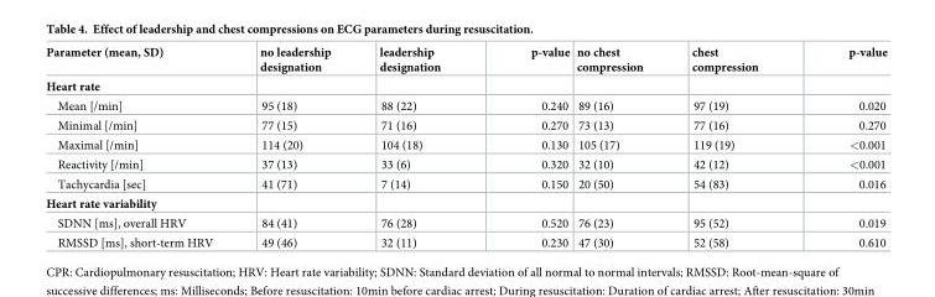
<table><thead><tr><td>Parameter (mean, SD)</td><td>no leadership designation</td><td>leadership designation</td><td>p-value</td><td>no chest compression</td><td>chest compression</td><td>p-value</td></tr></thead><tbody><tr><td colspan="7">Heart rate</td></tr><tr><td>Mean [/min]</td><td>95 (18)</td><td>88 (22)</td><td>0.240</td><td>89 (16)</td><td>97 (19)</td><td>0.020</td></tr><tr><td>Minimal [/min]</td><td>77 (15)</td><td>71 (16)</td><td>0.270</td><td>73 (13)</td><td>77 (16)</td><td>0.270</td></tr><tr><td>Maximal [/min]</td><td>114 (20)</td><td>104 (18)</td><td>0.130</td><td>105 (17)</td><td>119 (19)</td><td>&lt;0.001</td></tr><tr><td>Reactivity [/min]</td><td>37 (13)</td><td>33 (6)</td><td>0.320</td><td>32 (10)</td><td>42 (12)</td><td>&lt;0.001</td></tr><tr><td>Tachycardia [sec]</td><td>41 (71)</td><td>7 (14)</td><td>0.150</td><td>20 (50)</td><td>54 (83)</td><td>0.016</td></tr><tr><td colspan="7">Heart rate variability</td></tr><tr><td>SDNN [ms], overall HRV</td><td>84 (41)</td><td>76 (28)</td><td>0.520</td><td>76 (23)</td><td>95 (52)</td><td>0.019</td></tr><tr><td>RMSSD [ms], short-term HRV</td><td>49 (46)</td><td>32 (11)</td><td>0.230</td><td>47 (30)</td><td>52 (58)</td><td>0.610</td></tr></tbody></table>